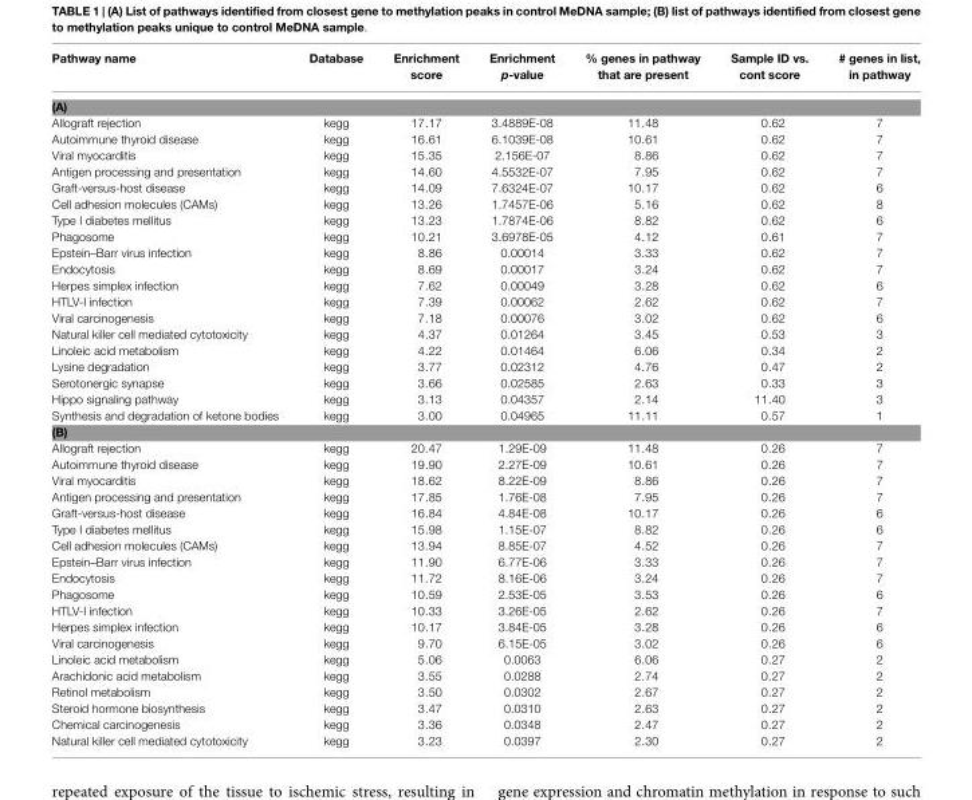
<table><thead><tr><td>Pathway name</td><td>Database</td><td>Enrichment score</td><td>Enrichment p-value</td><td>% genes in pathway that are present</td><td>Sample ID vs. cont score</td><td># genes in list, in pathway</td></tr></thead><tbody><tr><td colspan="7">(A)</td></tr><tr><td>Allograft rejection</td><td>kegg</td><td>17.17</td><td>3.4889E-08</td><td>11.48</td><td>0.62</td><td>7</td></tr><tr><td>Autoimmune thyroid disease</td><td>kegg</td><td>16.61</td><td>6.1039E-08</td><td>10.61</td><td>0.62</td><td>7</td></tr><tr><td>Viral myocarditis</td><td>kegg</td><td>15.35</td><td>2.156E-07</td><td>8.86</td><td>0.62</td><td>7</td></tr><tr><td>Antigen processing and presentation</td><td>kegg</td><td>14.60</td><td>4.5532E-07</td><td>7.95</td><td>0.62</td><td>7</td></tr><tr><td>Graft-versus-host disease</td><td>kegg</td><td>14.09</td><td>7.6324E-07</td><td>10.17</td><td>0.62</td><td>6</td></tr><tr><td>Cell adhesion molecules (CAMs)</td><td>kegg</td><td>13.26</td><td>1.7457E-06</td><td>5.16</td><td>0.62</td><td>8</td></tr><tr><td>Type I diabetes mellitus</td><td>kegg</td><td>13.23</td><td>1.7874E-06</td><td>8.82</td><td>0.62</td><td>6</td></tr><tr><td>Phagosome</td><td>kegg</td><td>10.21</td><td>3.6978E-05</td><td>4.12</td><td>0.61</td><td>7</td></tr><tr><td>Epstein–Barr virus infection</td><td>kegg</td><td>8.86</td><td>0.00014</td><td>3.33</td><td>0.62</td><td>7</td></tr><tr><td>Endocytosis</td><td>kegg</td><td>8.69</td><td>0.00017</td><td>3.24</td><td>0.62</td><td>7</td></tr><tr><td>Herpes simplex infection</td><td>kegg</td><td>7.62</td><td>0.00049</td><td>3.28</td><td>0.62</td><td>6</td></tr><tr><td>HTLV-I infection</td><td>kegg</td><td>7.39</td><td>0.00062</td><td>2.62</td><td>0.62</td><td>7</td></tr><tr><td>Viral carcinogenesis</td><td>kegg</td><td>7.18</td><td>0.00076</td><td>3.02</td><td>0.62</td><td>6</td></tr><tr><td>Natural killer cell mediated cytotoxicity</td><td>kegg</td><td>4.37</td><td>0.01264</td><td>3.45</td><td>0.53</td><td>3</td></tr><tr><td>Linoleic acid metabolism</td><td>kegg</td><td>4.22</td><td>0.01464</td><td>6.06</td><td>0.34</td><td>2</td></tr><tr><td>Lysine degradation</td><td>kegg</td><td>3.77</td><td>0.02312</td><td>4.76</td><td>0.47</td><td>2</td></tr><tr><td>Serotonergic synapse</td><td>kegg</td><td>3.66</td><td>0.02585</td><td>2.63</td><td>0.33</td><td>3</td></tr><tr><td>Hippo signaling pathway</td><td>kegg</td><td>3.13</td><td>0.04357</td><td>2.14</td><td>11.40</td><td>3</td></tr><tr><td>Synthesis and degradation of ketone bodies</td><td>kegg</td><td>3.00</td><td>0.04965</td><td>11.11</td><td>0.57</td><td>1</td></tr><tr><td colspan="7">(B)</td></tr><tr><td>Allograft rejection</td><td>kegg</td><td>20.47</td><td>1.29E-09</td><td>11.48</td><td>0.26</td><td>7</td></tr><tr><td>Autoimmune thyroid disease</td><td>kegg</td><td>19.90</td><td>2.27E-09</td><td>10.61</td><td>0.26</td><td>7</td></tr><tr><td>Viral myocarditis</td><td>kegg</td><td>18.62</td><td>8.22E-09</td><td>8.86</td><td>0.26</td><td>7</td></tr><tr><td>Antigen processing and presentation</td><td>kegg</td><td>17.85</td><td>1.76E-08</td><td>7.95</td><td>0.26</td><td>7</td></tr><tr><td>Graft-versus-host disease</td><td>kegg</td><td>16.84</td><td>4.84E-08</td><td>10.17</td><td>0.26</td><td>6</td></tr><tr><td>Type I diabetes mellitus</td><td>kegg</td><td>15.98</td><td>1.15E-07</td><td>8.82</td><td>0.26</td><td>6</td></tr><tr><td>Cell adhesion molecules (CAMs)</td><td>kegg</td><td>13.94</td><td>8.85E-07</td><td>4.52</td><td>0.26</td><td>7</td></tr><tr><td>Epstein–Barr virus infection</td><td>kegg</td><td>11.90</td><td>6.77E-06</td><td>3.33</td><td>0.26</td><td>7</td></tr><tr><td>Endocytosis</td><td>kegg</td><td>11.72</td><td>8.16E-06</td><td>3.24</td><td>0.26</td><td>7</td></tr><tr><td>Phagosome</td><td>kegg</td><td>10.59</td><td>2.53E-05</td><td>3.53</td><td>0.26</td><td>6</td></tr><tr><td>HTLV-I infection</td><td>kegg</td><td>10.33</td><td>3.26E-05</td><td>2.62</td><td>0.26</td><td>7</td></tr><tr><td>Herpes simplex infection</td><td>kegg</td><td>10.17</td><td>3.84E-05</td><td>3.28</td><td>0.26</td><td>6</td></tr><tr><td>Viral carcinogenesis</td><td>kegg</td><td>9.70</td><td>6.15E-05</td><td>3.02</td><td>0.26</td><td>6</td></tr><tr><td>Linoleic acid metabolism</td><td>kegg</td><td>5.06</td><td>0.0063</td><td>6.06</td><td>0.27</td><td>2</td></tr><tr><td>Arachidonic acid metabolism</td><td>kegg</td><td>3.55</td><td>0.0288</td><td>2.74</td><td>0.27</td><td>2</td></tr><tr><td>Retinol metabolism</td><td>kegg</td><td>3.50</td><td>0.0302</td><td>2.67</td><td>0.27</td><td>2</td></tr><tr><td>Steroid hormone biosynthesis</td><td>kegg</td><td>3.47</td><td>0.0310</td><td>2.63</td><td>0.27</td><td>2</td></tr><tr><td>Chemical carcinogenesis</td><td>kegg</td><td>3.36</td><td>0.0348</td><td>2.47</td><td>0.27</td><td>2</td></tr><tr><td>Natural killer cell mediated cytotoxicity</td><td>kegg</td><td>3.23</td><td>0.0397</td><td>2.30</td><td>0.27</td><td>2</td></tr></tbody></table>